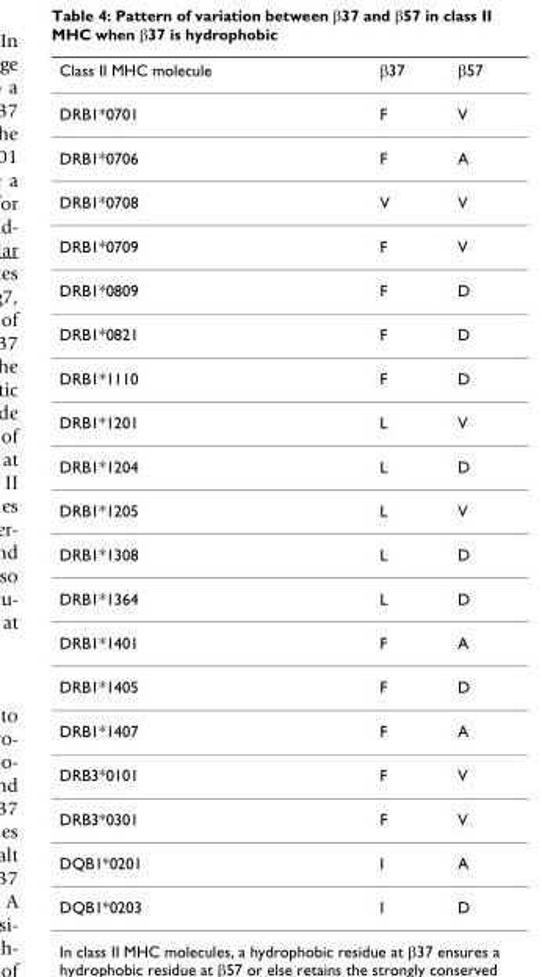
<table><thead><tr><td>Class II MHC molecule</td><td>β37</td><td>β57</td></tr></thead><tbody><tr><td>DRB1*0701</td><td>F</td><td>V</td></tr><tr><td>DRB1*0706</td><td>F</td><td>A</td></tr><tr><td>DRB1*0708</td><td>V</td><td>V</td></tr><tr><td>DRB1*0709</td><td>F</td><td>V</td></tr><tr><td>DRB1*0809</td><td>F</td><td>D</td></tr><tr><td>DRB1*0821</td><td>F</td><td>D</td></tr><tr><td>DRB1*1110</td><td>F</td><td>D</td></tr><tr><td>DRB1*1201</td><td>L</td><td>V</td></tr><tr><td>DRB1*1204</td><td>L</td><td>D</td></tr><tr><td>DRB1*1205</td><td>L</td><td>V</td></tr><tr><td>DRB1*1308</td><td>L</td><td>D</td></tr><tr><td>DRB1*1364</td><td>L</td><td>D</td></tr><tr><td>DRB1*1401</td><td>F</td><td>A</td></tr><tr><td>DRB1*1405</td><td>F</td><td>D</td></tr><tr><td>DRB1*1407</td><td>F</td><td>A</td></tr><tr><td>DRB3*0101</td><td>F</td><td>V</td></tr><tr><td>DRB3*0301</td><td>F</td><td>V</td></tr><tr><td>DQB1*0201</td><td>I</td><td>A</td></tr><tr><td>DQB1*0203</td><td>I</td><td>D</td></tr></tbody></table>